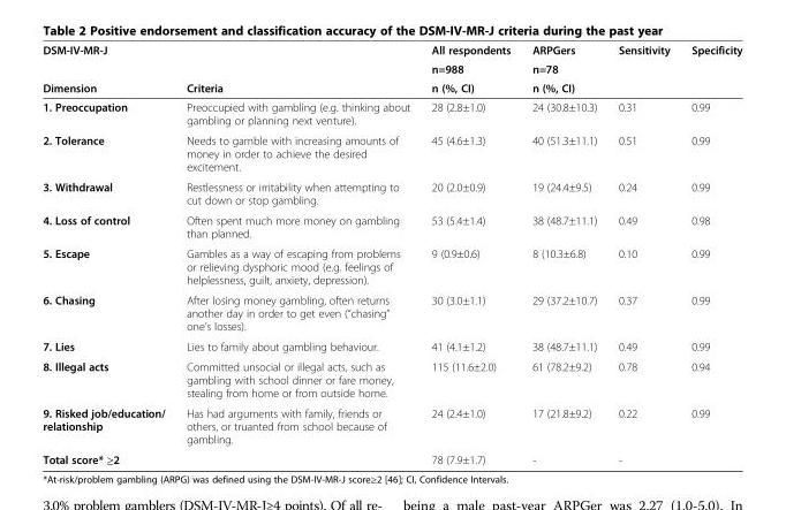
<table><thead><tr><td rowspan="3">DSM-IV-MR-J Dimension</td><td rowspan="3">Criteria</td><td rowspan="3">All respondents n=988 n (%, CI)</td><td rowspan="3">ARPGers n=78 n (%, CI)</td><td rowspan="3">Sensitivity</td><td rowspan="3">Specificity</td></tr><tr></tr><tr></tr></thead><tbody><tr><td>1. Preoccupation</td><td>Preoccupied with gambling (e.g. thinking about gambling or planning next venture).</td><td>28 (2.8±1.0)</td><td>24 (30.8±10.3)</td><td>0.31</td><td>0.99</td></tr><tr><td>2. Tolerance</td><td>Needs to gamble with increasing amounts of money in order to achieve the desired excitement.</td><td>45 (4.6±1.3)</td><td>40 (51.3±11.1)</td><td>0.51</td><td>0.99</td></tr><tr><td>3. Withdrawal</td><td>Restlessness or irritability when attempting to cut down or stop gambling.</td><td>20 (2.0±0.9)</td><td>19 (24.4±9.5)</td><td>0.24</td><td>0.99</td></tr><tr><td>4. Loss of control</td><td>Often spent much more money on gambling than planned.</td><td>53 (5.4±1.4)</td><td>38 (48.7±11.1)</td><td>0.49</td><td>0.98</td></tr><tr><td>5. Escape</td><td>Gambles as a way of escaping from problems or relieving dysphoric mood (e.g. feelings of helplessness, guilt, anxiety, depression).</td><td>9 (0.9±0.6)</td><td>8 (10.3±6.8)</td><td>0.10</td><td>0.99</td></tr><tr><td>6. Chasing</td><td>After losing money gambling, often returns another day in order to get even (“chasing” one’s losses).</td><td>30 (3.0±1.1)</td><td>29 (37.2±10.7)</td><td>0.37</td><td>0.99</td></tr><tr><td>7. Lies</td><td>Lies to family about gambling behaviour.</td><td>41 (4.1±1.2)</td><td>38 (48.7±11.1)</td><td>0.49</td><td>0.99</td></tr><tr><td>8. Illegal acts</td><td>Committed unsocial or illegal acts, such as gambling with school dinner or fare money, stealing from home or from outside home.</td><td>115 (11.6±2.0)</td><td>61 (78.2±9.2)</td><td>0.78</td><td>0.94</td></tr><tr><td>9. Risked job/education/ relationship</td><td>Has had arguments with family, friends or others, or truanted from school because of gambling.</td><td>24 (2.4±1.0)</td><td>17 (21.8±9.2)</td><td>0.22</td><td>0.99</td></tr><tr><td>Total score* ≥2</td><td></td><td>78 (7.9±1.7)</td><td>-</td><td>-</td><td></td></tr></tbody></table>